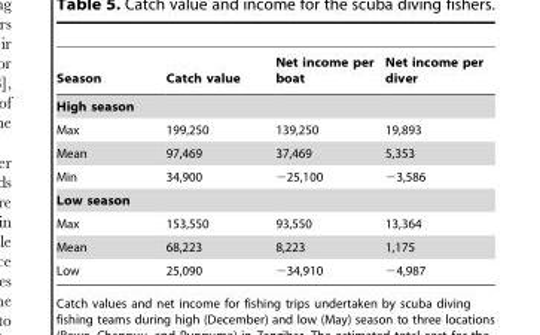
<table><thead><tr><td>Season</td><td>Catch value</td><td>Net income per boat</td><td>Net income per diver</td></tr></thead><tbody><tr><td colspan="4">High season</td></tr><tr><td>Max</td><td>199,250</td><td>139,250</td><td>19,893</td></tr><tr><td>Mean</td><td>97,469</td><td>37,469</td><td>5,353</td></tr><tr><td>Min</td><td>34,900</td><td>−25,100</td><td>−3,586</td></tr><tr><td colspan="4">Low season</td></tr><tr><td>Max</td><td>153,550</td><td>93,550</td><td>13,364</td></tr><tr><td>Mean</td><td>68,223</td><td>8,223</td><td>1,175</td></tr><tr><td>Low</td><td>25,090</td><td>−34,910</td><td>−4,987</td></tr></tbody></table>